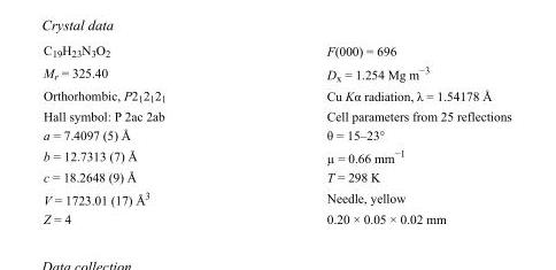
<table><tbody><tr><td>C<sub>19</sub>H<sub>23</sub>N<sub>3</sub>O<sub>2</sub></td><td>F(000) = 696</td></tr><tr><td>M<sub>r</sub> = 325.40</td><td>D<sub>x</sub> = 1.254 Mg m<sup>−3</sup></td></tr><tr><td>Orthorhombic, P2<sub>1</sub>2<sub>1</sub>2<sub>1</sub></td><td>Cu Kα radiation, λ = 1.54178 Å</td></tr><tr><td>Hall symbol: P 2ac 2ab</td><td>Cell parameters from 25 reflections</td></tr><tr><td>a = 7.4097 (5) Å</td><td>θ = 15–23°</td></tr><tr><td>b = 12.7313 (7) Å</td><td>µ = 0.66 mm<sup>−1</sup></td></tr><tr><td>c = 18.2648 (9) Å</td><td>T = 298 K</td></tr><tr><td>V = 1723.01 (17) Å<sup>3</sup></td><td>Needle, yellow</td></tr><tr><td>Z = 4</td><td>0.20 × 0.05 × 0.02 mm</td></tr></tbody></table>